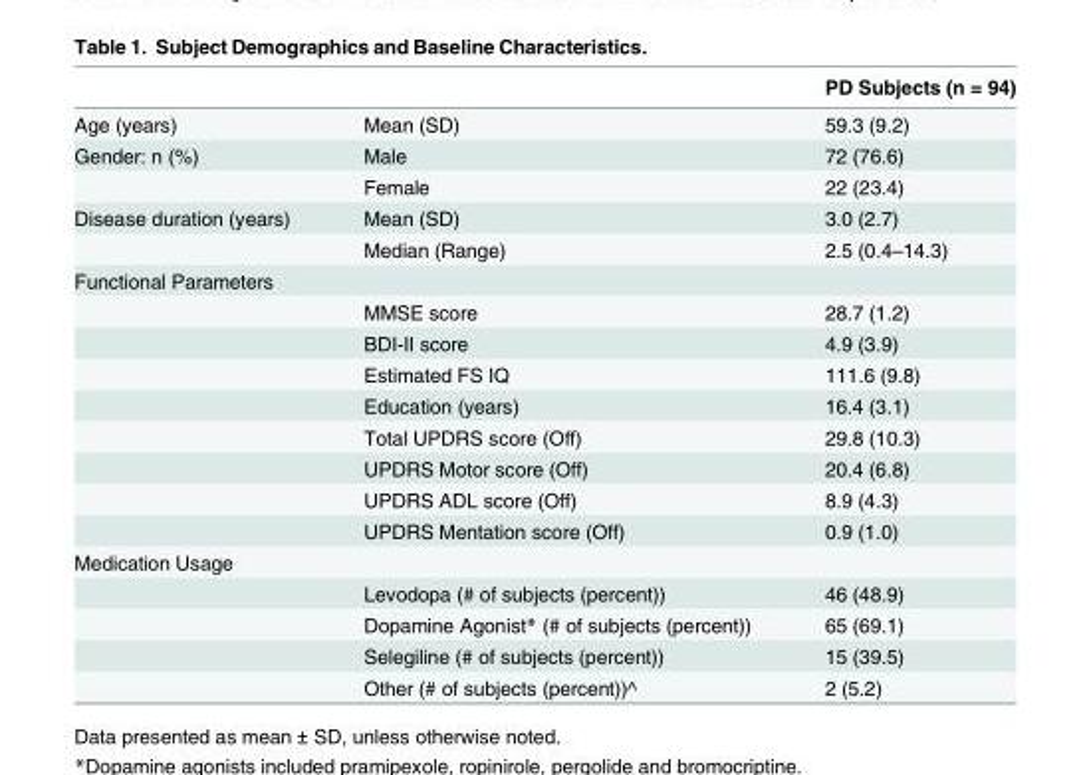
<table><thead><tr><td></td><td></td><td>PD Subjects (n = 94)</td></tr></thead><tbody><tr><td>Age (years)</td><td>Mean (SD)</td><td>59.3 (9.2)</td></tr><tr><td rowspan="2">Gender: n (%)</td><td>Male</td><td>72 (76.6)</td></tr><tr><td>Female</td><td>22 (23.4)</td></tr><tr><td rowspan="2">Disease duration (years)</td><td>Mean (SD)</td><td>3.0 (2.7)</td></tr><tr><td>Median (Range)</td><td>2.5 (0.4–14.3)</td></tr><tr><td colspan="3">Functional Parameters</td></tr><tr><td></td><td>MMSE score</td><td>28.7 (1.2)</td></tr><tr><td></td><td>BDI-II score</td><td>4.9 (3.9)</td></tr><tr><td></td><td>Estimated FS IQ</td><td>111.6 (9.8)</td></tr><tr><td></td><td>Education (years)</td><td>16.4 (3.1)</td></tr><tr><td></td><td>Total UPDRS score (Off)</td><td>29.8 (10.3)</td></tr><tr><td></td><td>UPDRS Motor score (Off)</td><td>20.4 (6.8)</td></tr><tr><td></td><td>UPDRS ADL score (Off)</td><td>8.9 (4.3)</td></tr><tr><td></td><td>UPDRS Mentation score (Off)</td><td>0.9 (1.0)</td></tr><tr><td colspan="3">Medication Usage</td></tr><tr><td></td><td>Levodopa (# of subjects (percent))</td><td>46 (48.9)</td></tr><tr><td></td><td>Dopamine Agonist* (# of subjects (percent))</td><td>65 (69.1)</td></tr><tr><td></td><td>Selegiline (# of subjects (percent))</td><td>15 (39.5)</td></tr><tr><td></td><td>Other (# of subjects (percent))^</td><td>2 (5.2)</td></tr></tbody></table>